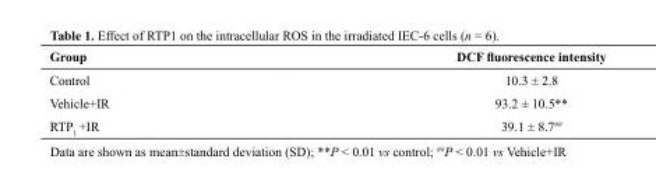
<table><thead><tr><td>Group</td><td>DCF fluorescence intensity</td></tr></thead><tbody><tr><td>Control</td><td>10.3 ± 2.8</td></tr><tr><td>Vehicle+IR</td><td>93.2 ± 10.5**</td></tr><tr><td>RTP<sub>1</sub> +IR</td><td>39.1 ± 8.7##</td></tr></tbody></table>